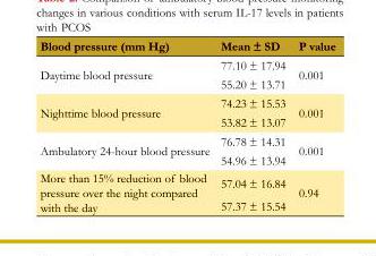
<table><tbody><tr><td>Blood pressure (mm Hg)</td><td>Mean ± SD</td><td>P value</td></tr><tr><td rowspan="2">Daytime blood pressure</td><td>77.10 ± 17.94</td><td rowspan="2">0.001</td></tr><tr><td>55.20 ± 13.71</td></tr><tr><td rowspan="2">Nighttime blood pressure</td><td>74.23 ± 15.53</td><td rowspan="2">0.001</td></tr><tr><td>53.82 ± 13.07</td></tr><tr><td rowspan="2">Ambulatory 24-hour blood pressure</td><td>76.78 ± 14.31</td><td rowspan="2">0.001</td></tr><tr><td>54.96 ± 13.94</td></tr><tr><td rowspan="2">More than 15% reduction of blood pressure over the night compared with the day</td><td>57.04 ± 16.84</td><td rowspan="2">0.94</td></tr><tr><td>57.37 ± 15.54</td></tr></tbody></table>